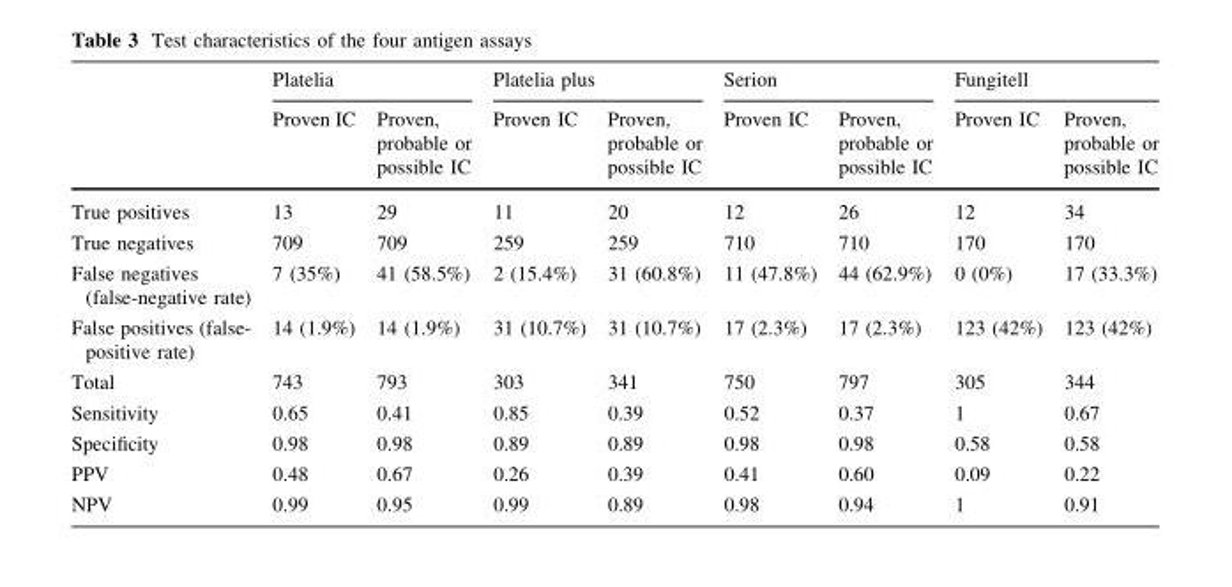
<table><thead><tr><td rowspan="2"></td><td colspan="2">Platelia</td><td colspan="2">Platelia plus</td><td colspan="2">Serion</td><td colspan="2">Fungitell</td></tr><tr><td>Proven IC</td><td>Proven, probable or possible IC</td><td>Proven IC</td><td>Proven, probable or possible IC</td><td>Proven IC</td><td>Proven, probable or possible IC</td><td>Proven IC</td><td>Proven, probable or possible IC</td></tr></thead><tbody><tr><td>True positives</td><td>13</td><td>29</td><td>11</td><td>20</td><td>12</td><td>26</td><td>12</td><td>34</td></tr><tr><td>True negatives</td><td>709</td><td>709</td><td>259</td><td>259</td><td>710</td><td>710</td><td>170</td><td>170</td></tr><tr><td>False negatives (false-negative rate)</td><td>7 (35%)</td><td>41 (58.5%)</td><td>2 (15.4%)</td><td>31 (60.8%)</td><td>11 (47.8%)</td><td>44 (62.9%)</td><td>0 (0%)</td><td>17 (33.3%)</td></tr><tr><td>False positives (false- positive rate)</td><td>14 (1.9%)</td><td>14 (1.9%)</td><td>31 (10.7%)</td><td>31 (10.7%)</td><td>17 (2.3%)</td><td>17 (2.3%)</td><td>123 (42%)</td><td>123 (42%)</td></tr><tr><td>Total</td><td>743</td><td>793</td><td>303</td><td>341</td><td>750</td><td>797</td><td>305</td><td>344</td></tr><tr><td>Sensitivity</td><td>0.65</td><td>0.41</td><td>0.85</td><td>0.39</td><td>0.52</td><td>0.37</td><td>1</td><td>0.67</td></tr><tr><td>Specificity</td><td>0.98</td><td>0.98</td><td>0.89</td><td>0.89</td><td>0.98</td><td>0.98</td><td>0.58</td><td>0.58</td></tr><tr><td>PPV</td><td>0.48</td><td>0.67</td><td>0.26</td><td>0.39</td><td>0.41</td><td>0.60</td><td>0.09</td><td>0.22</td></tr><tr><td>NPV</td><td>0.99</td><td>0.95</td><td>0.99</td><td>0.89</td><td>0.98</td><td>0.94</td><td>1</td><td>0.91</td></tr></tbody></table>